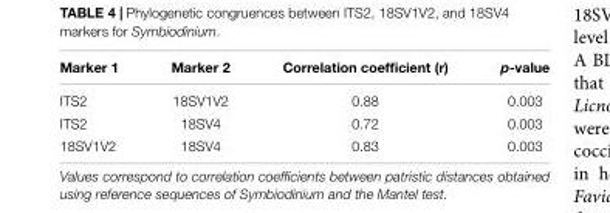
<table><thead><tr><td>Marker 1</td><td>Marker 2</td><td>Correlation coefficient (r)</td><td>p-value</td></tr></thead><tbody><tr><td>ITS2</td><td>18SV1V2</td><td>0.88</td><td>0.003</td></tr><tr><td>ITS2</td><td>18SV4</td><td>0.72</td><td>0.003</td></tr><tr><td>18SV1V2</td><td>18SV4</td><td>0.83</td><td>0.003</td></tr></tbody></table>